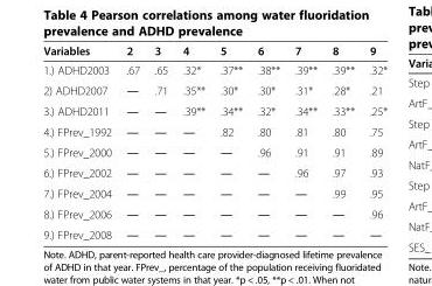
<table><thead><tr><td>Variables</td><td>2</td><td>3</td><td>4</td><td>5</td><td>6</td><td>7</td><td>8</td><td>9</td></tr></thead><tbody><tr><td>1.) ADHD2003</td><td>.67</td><td>.65</td><td>.32*</td><td>.37**</td><td>.38**</td><td>.39**</td><td>.39**</td><td>.32*</td></tr><tr><td>2) ADHD2007</td><td>―</td><td>.71</td><td>.35**</td><td>.30*</td><td>.30*</td><td>.31*</td><td>.28*</td><td>.21</td></tr><tr><td>3.) ADHD2011</td><td>―</td><td>―</td><td>.39**</td><td>.34**</td><td>.32*</td><td>.34**</td><td>.33**</td><td>.25*</td></tr><tr><td>4.) FPrev_1992</td><td>―</td><td>―</td><td>―</td><td>.82</td><td>.80</td><td>.81</td><td>.80</td><td>.75</td></tr><tr><td>5.) FPrev_2000</td><td>―</td><td>―</td><td>―</td><td>―</td><td>.96</td><td>.91</td><td>.91</td><td>.89</td></tr><tr><td>6.) FPrev_2002</td><td>―</td><td>―</td><td>―</td><td>―</td><td>―</td><td>.96</td><td>.97</td><td>.93</td></tr><tr><td>7.) FPrev_2004</td><td>―</td><td>―</td><td>―</td><td>―</td><td>―</td><td>―</td><td>.99</td><td>.95</td></tr><tr><td>8.) FPrev_2006</td><td>―</td><td>―</td><td>―</td><td>―</td><td>―</td><td>―</td><td>―</td><td>.96</td></tr><tr><td>9.) FPrev_2008</td><td>―</td><td>―</td><td>―</td><td>―</td><td>―</td><td>―</td><td>―</td><td>―</td></tr></tbody></table>